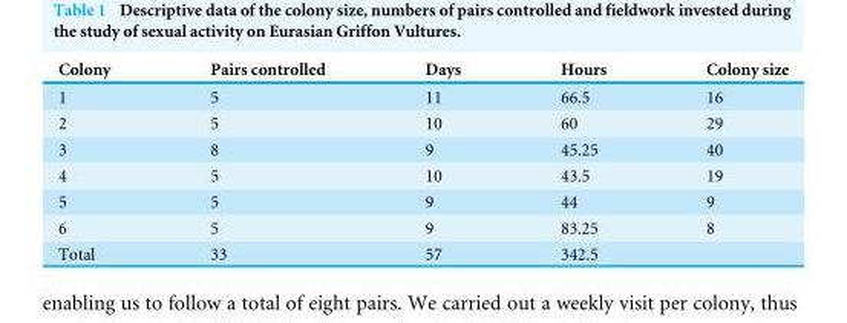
<table><thead><tr><td>Colony</td><td>Pairs controlled</td><td>Days</td><td>Hours</td><td>Colony size</td></tr></thead><tbody><tr><td>1</td><td>5</td><td>11</td><td>66.5</td><td>16</td></tr><tr><td>2</td><td>5</td><td>10</td><td>60</td><td>29</td></tr><tr><td>3</td><td>8</td><td>9</td><td>45.25</td><td>40</td></tr><tr><td>4</td><td>5</td><td>10</td><td>43.5</td><td>19</td></tr><tr><td>5</td><td>5</td><td>9</td><td>44</td><td>9</td></tr><tr><td>6</td><td>5</td><td>9</td><td>83.25</td><td>8</td></tr><tr><td>Total</td><td>33</td><td>57</td><td>342.5</td><td></td></tr></tbody></table>